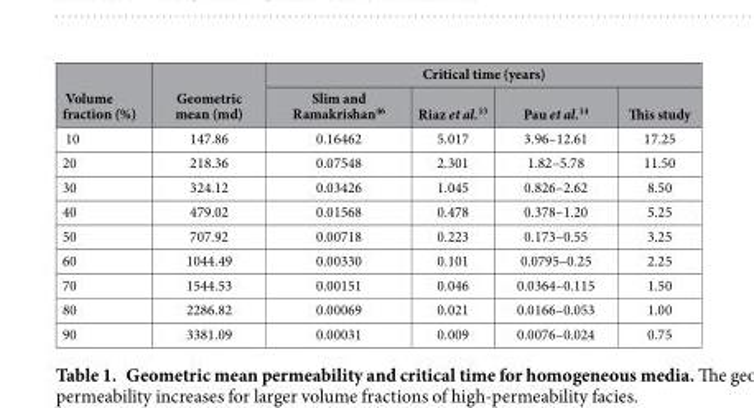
<table><thead><tr><td rowspan="2">Volume fraction (%)</td><td rowspan="2">Geometric mean (md)</td><td colspan="4">Critical time (years)</td></tr><tr><td>Slim and Ramakrishan<sup>46</sup></td><td>Riaz et al.<sup>13</sup></td><td>Pau et al.<sup>14</sup></td><td>This study</td></tr></thead><tbody><tr><td>10</td><td>147.86</td><td>0.16462</td><td>5.017</td><td>3.96–12.61</td><td>17.25</td></tr><tr><td>20</td><td>218.36</td><td>0.07548</td><td>2.301</td><td>1.82–5.78</td><td>11.50</td></tr><tr><td>30</td><td>324.12</td><td>0.03426</td><td>1.045</td><td>0.826–2.62</td><td>8.50</td></tr><tr><td>40</td><td>479.02</td><td>0.01568</td><td>0.478</td><td>0.378–1.20</td><td>5.25</td></tr><tr><td>50</td><td>707.92</td><td>0.00718</td><td>0.223</td><td>0.173–0.55</td><td>3.25</td></tr><tr><td>60</td><td>1044.49</td><td>0.00330</td><td>0.101</td><td>0.0795–0.25</td><td>2.25</td></tr><tr><td>70</td><td>1544.53</td><td>0.00151</td><td>0.046</td><td>0.0364–0.115</td><td>1.50</td></tr><tr><td>80</td><td>2286.82</td><td>0.00069</td><td>0.021</td><td>0.0166–0.053</td><td>1.00</td></tr><tr><td>90</td><td>3381.09</td><td>0.00031</td><td>0.009</td><td>0.0076–0.024</td><td>0.75</td></tr></tbody></table>